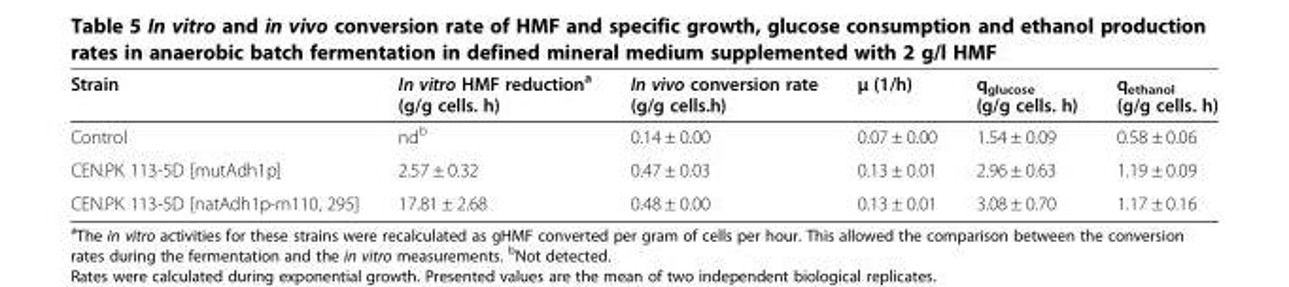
<table><thead><tr><td>Strain</td><td>In vitro HMF reduction<sup>a</sup> (g/g cells. h)</td><td>In vivo conversion rate (g/g cells.h)</td><td>μ (1/h)</td><td>q<sub>glucose</sub> (g/g cells. h)</td><td>q<sub>ethanol</sub> (g/g cells. h)</td></tr></thead><tbody><tr><td>Control</td><td>nd<sup>b</sup></td><td>0.14 ± 0.00</td><td>0.07 ± 0.00</td><td>1.54 ± 0.09</td><td>0.58 ± 0.06</td></tr><tr><td>CEN.PK 113-5D [mutAdh1p]</td><td>2.57 ± 0.32</td><td>0.47 ± 0.03</td><td>0.13 ± 0.01</td><td>2.96 ± 0.63</td><td>1.19 ± 0.09</td></tr><tr><td>CEN.PK 113-5D [natAdh1p-m110, 295]</td><td>17.81 ± 2.68</td><td>0.48 ± 0.00</td><td>0.13 ± 0.01</td><td>3.08 ± 0.70</td><td>1.17 ± 0.16</td></tr></tbody></table>